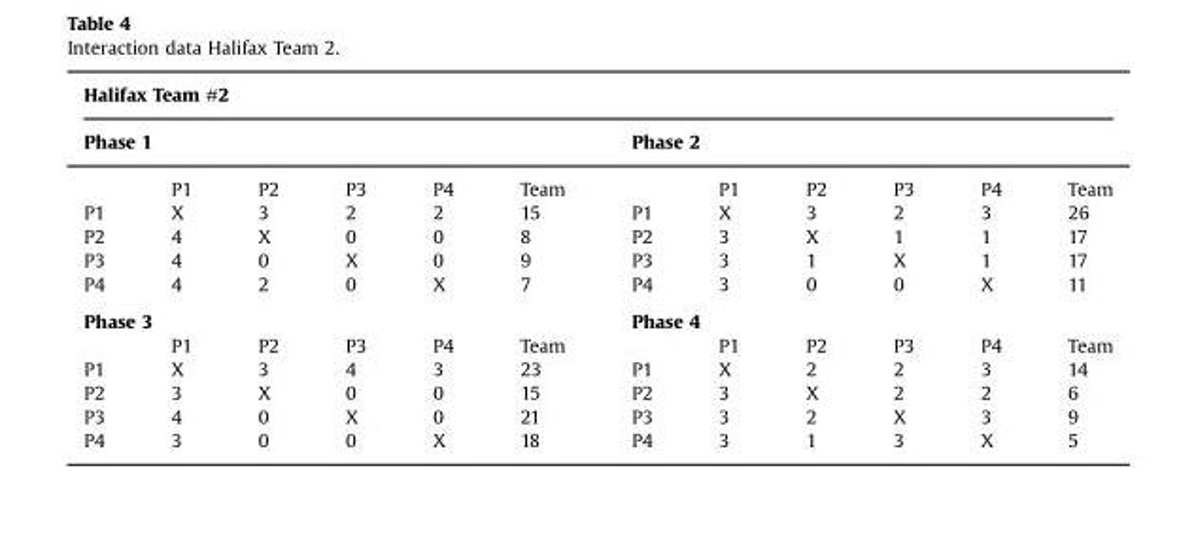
<table><thead><tr><td colspan="12">Halifax Team #2</td></tr><tr><td colspan="6">Phase 1</td><td colspan="6">Phase 2</td></tr><tr><td></td><td>P1</td><td>P2</td><td>P3</td><td>P4</td><td>Team</td><td></td><td>P1</td><td>P2</td><td>P3</td><td>P4</td><td>Team</td></tr></thead><tbody><tr><td>P1</td><td>X</td><td>3</td><td>2</td><td>2</td><td>15</td><td>P1</td><td>X</td><td>3</td><td>2</td><td>3</td><td>26</td></tr><tr><td>P2</td><td>4</td><td>X</td><td>0</td><td>0</td><td>8</td><td>P2</td><td>3</td><td>X</td><td>1</td><td>1</td><td>17</td></tr><tr><td>P3</td><td>4</td><td>0</td><td>X</td><td>0</td><td>9</td><td>P3</td><td>3</td><td>1</td><td>X</td><td>1</td><td>17</td></tr><tr><td>P4</td><td>4</td><td>2</td><td>0</td><td>X</td><td>7</td><td>P4</td><td>3</td><td>0</td><td>0</td><td>X</td><td>11</td></tr><tr><td colspan="6">Phase 3</td><td colspan="6">Phase 4</td></tr><tr><td></td><td>P1</td><td>P2</td><td>P3</td><td>P4</td><td>Team</td><td></td><td>P1</td><td>P2</td><td>P3</td><td>P4</td><td>Team</td></tr><tr><td>P1</td><td>X</td><td>3</td><td>4</td><td>3</td><td>23</td><td>P1</td><td>X</td><td>2</td><td>2</td><td>3</td><td>14</td></tr><tr><td>P2</td><td>3</td><td>X</td><td>0</td><td>0</td><td>15</td><td>P2</td><td>3</td><td>X</td><td>2</td><td>2</td><td>6</td></tr><tr><td>P3</td><td>4</td><td>0</td><td>X</td><td>0</td><td>21</td><td>P3</td><td>3</td><td>2</td><td>X</td><td>3</td><td>9</td></tr><tr><td>P4</td><td>3</td><td>0</td><td>0</td><td>X</td><td>18</td><td>P4</td><td>3</td><td>1</td><td>3</td><td>X</td><td>5</td></tr></tbody></table>